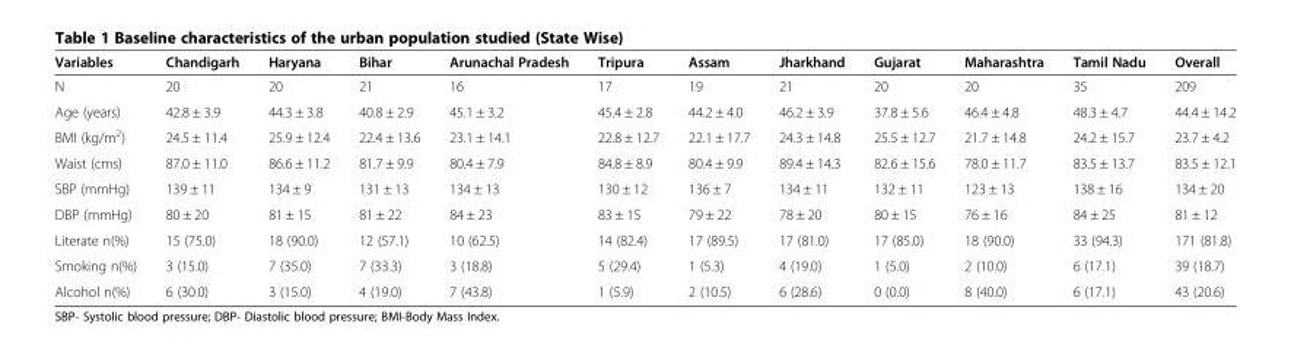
<table><thead><tr><td>Variables</td><td>Chandigarh</td><td>Haryana</td><td>Bihar</td><td>Arunachal Pradesh</td><td>Tripura</td><td>Assam</td><td>Jharkhand</td><td>Gujarat</td><td>Maharashtra</td><td>Tamil Nadu</td><td>Overall</td></tr></thead><tbody><tr><td>N</td><td>20</td><td>20</td><td>21</td><td>16</td><td>17</td><td>19</td><td>21</td><td>20</td><td>20</td><td>35</td><td>209</td></tr><tr><td>Age (years)</td><td>42.8 ± 3.9</td><td>44.3 ± 3.8</td><td>40.8 ± 2.9</td><td>45.1 ± 3.2</td><td>45.4 ± 2.8</td><td>44.2 ± 4.0</td><td>46.2 ± 3.9</td><td>37.8 ± 5.6</td><td>46.4 ± 4.8</td><td>48.3 ± 4.7</td><td>44.4 ± 14.2</td></tr><tr><td>BMI (kg/m<sup>2</sup>)</td><td>24.5 ± 11.4</td><td>25.9 ± 12.4</td><td>22.4 ± 13.6</td><td>23.1 ± 14.1</td><td>22.8 ± 12.7</td><td>22.1 ± 17.7</td><td>24.3 ± 14.8</td><td>25.5 ± 12.7</td><td>21.7 ± 14.8</td><td>24.2 ± 15.7</td><td>23.7 ± 4.2</td></tr><tr><td>Waist (cms)</td><td>87.0 ± 11.0</td><td>86.6 ± 11.2</td><td>81.7 ± 9.9</td><td>80.4 ± 7.9</td><td>84.8 ± 8.9</td><td>80.4 ± 9.9</td><td>89.4 ± 14.3</td><td>82.6 ± 15.6</td><td>78.0 ± 11.7</td><td>83.5 ± 13.7</td><td>83.5 ± 12.1</td></tr><tr><td>SBP (mmHg)</td><td>139 ± 11</td><td>134 ± 9</td><td>131 ± 13</td><td>134 ± 13</td><td>130 ± 12</td><td>136 ± 7</td><td>134 ± 11</td><td>132 ± 11</td><td>123 ± 13</td><td>138 ± 16</td><td>134 ± 20</td></tr><tr><td>DBP (mmHg)</td><td>80 ± 20</td><td>81 ± 15</td><td>81 ± 22</td><td>84 ± 23</td><td>83 ± 15</td><td>79 ± 22</td><td>78 ± 20</td><td>80 ± 15</td><td>76 ± 16</td><td>84 ± 25</td><td>81 ± 12</td></tr><tr><td>Literate n(%)</td><td>15 (75.0)</td><td>18 (90.0)</td><td>12 (57.1)</td><td>10 (62.5)</td><td>14 (82.4)</td><td>17 (89.5)</td><td>17 (81.0)</td><td>17 (85.0)</td><td>18 (90.0)</td><td>33 (94.3)</td><td>171 (81.8)</td></tr><tr><td>Smoking n(%)</td><td>3 (15.0)</td><td>7 (35.0)</td><td>7 (33.3)</td><td>3 (18.8)</td><td>5 (29.4)</td><td>1 (5.3)</td><td>4 (19.0)</td><td>1 (5.0)</td><td>2 (10.0)</td><td>6 (17.1)</td><td>39 (18.7)</td></tr><tr><td>Alcohol n(%)</td><td>6 (30.0)</td><td>3 (15.0)</td><td>4 (19.0)</td><td>7 (43.8)</td><td>1 (5.9)</td><td>2 (10.5)</td><td>6 (28.6)</td><td>0 (0.0)</td><td>8 (40.0)</td><td>6 (17.1)</td><td>43 (20.6)</td></tr></tbody></table>